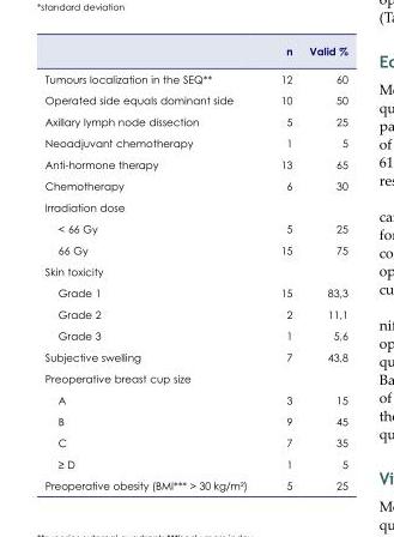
<table><thead><tr><td></td><td>n</td><td>Valid %</td></tr></thead><tbody><tr><td>Tumours localization in the SEQ**</td><td>12</td><td>60</td></tr><tr><td>Operated side equals dominant side</td><td>10</td><td>50</td></tr><tr><td>Axillary lymph node dissection</td><td>5</td><td>25</td></tr><tr><td>Neoadjuvant chemotherapy</td><td>1</td><td>5</td></tr><tr><td>Anti-hormone therapy</td><td>13</td><td>65</td></tr><tr><td>Chemotherapy</td><td>6</td><td>30</td></tr><tr><td colspan="3">Irradiation dose</td></tr><tr><td>&lt; 66 Gy</td><td>5</td><td>25</td></tr><tr><td>66 Gy</td><td>15</td><td>75</td></tr><tr><td colspan="3">Skin toxicity</td></tr><tr><td>Grade 1</td><td>15</td><td>83,3</td></tr><tr><td>Grade 2</td><td>2</td><td>11,1</td></tr><tr><td>Grade 3</td><td>1</td><td>5,6</td></tr><tr><td>Subjective swelling</td><td>7</td><td>43,8</td></tr><tr><td colspan="3">Preoperative breast cup size</td></tr><tr><td>A</td><td>3</td><td>15</td></tr><tr><td>B</td><td>9</td><td>45</td></tr><tr><td>C</td><td>7</td><td>35</td></tr><tr><td>≥ D</td><td>1</td><td>5</td></tr><tr><td>Preoperative obesity (BMI*** &gt; 30 kg/m²)</td><td>5</td><td>25</td></tr></tbody></table>